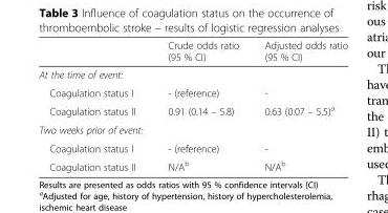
<table><thead><tr><td></td><td>Crude odds ratio (95 % CI)</td><td>Adjusted odds ratio (95 % CI)</td></tr></thead><tbody><tr><td colspan="3">At the time of event:</td></tr><tr><td>Coagulation status I</td><td>- (reference)</td><td>-</td></tr><tr><td>Coagulation status II</td><td>0.91 (0.14 – 5.8)</td><td>0.63 (0.07 – 5.5)<sup>a</sup></td></tr><tr><td colspan="3">Two weeks prior of event:</td></tr><tr><td>Coagulation status I</td><td>- (reference)</td><td>-</td></tr><tr><td>Coagulation status II</td><td>N/A<sup>b</sup></td><td>N/A<sup>b</sup></td></tr></tbody></table>